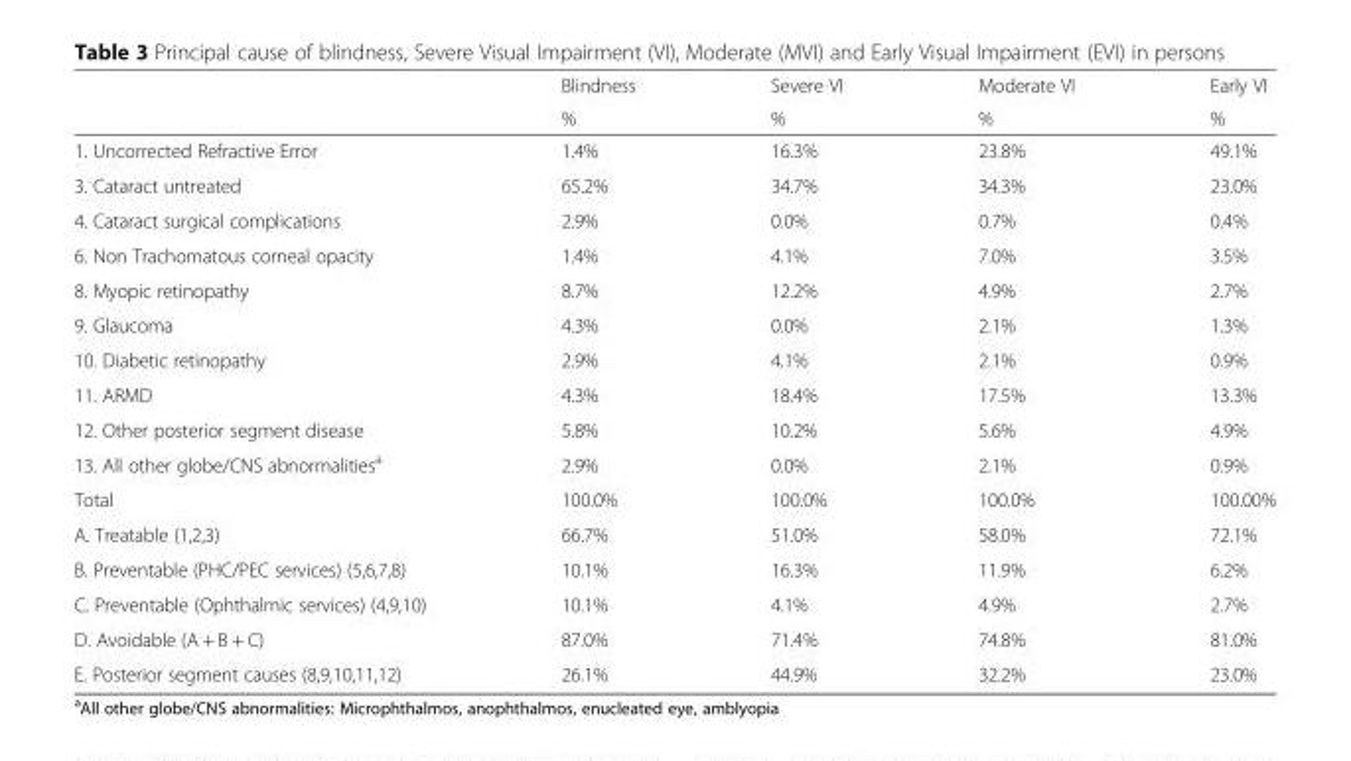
<table><thead><tr><td rowspan="2"></td><td rowspan="2">Blindness %</td><td rowspan="2">Severe VI %</td><td rowspan="2">Moderate VI %</td><td rowspan="2">Early VI %</td></tr><tr></tr></thead><tbody><tr><td>1. Uncorrected Refractive Error</td><td>1.4%</td><td>16.3%</td><td>23.8%</td><td>49.1%</td></tr><tr><td>3. Cataract untreated</td><td>65.2%</td><td>34.7%</td><td>34.3%</td><td>23.0%</td></tr><tr><td>4. Cataract surgical complications</td><td>2.9%</td><td>0.0%</td><td>0.7%</td><td>0.4%</td></tr><tr><td>6. Non Trachomatous corneal opacity</td><td>1.4%</td><td>4.1%</td><td>7.0%</td><td>3.5%</td></tr><tr><td>8. Myopic retinopathy</td><td>8.7%</td><td>12.2%</td><td>4.9%</td><td>2.7%</td></tr><tr><td>9. Glaucoma</td><td>4.3%</td><td>0.0%</td><td>2.1%</td><td>1.3%</td></tr><tr><td>10. Diabetic retinopathy</td><td>2.9%</td><td>4.1%</td><td>2.1%</td><td>0.9%</td></tr><tr><td>11. ARMD</td><td>4.3%</td><td>18.4%</td><td>17.5%</td><td>13.3%</td></tr><tr><td>12. Other posterior segment disease</td><td>5.8%</td><td>10.2%</td><td>5.6%</td><td>4.9%</td></tr><tr><td>13. All other globe/CNS abnormalities<sup>a</sup></td><td>2.9%</td><td>0.0%</td><td>2.1%</td><td>0.9%</td></tr><tr><td>Total</td><td>100.0%</td><td>100.0%</td><td>100.0%</td><td>100.00%</td></tr><tr><td>A. Treatable (1,2,3)</td><td>66.7%</td><td>51.0%</td><td>58.0%</td><td>72.1%</td></tr><tr><td>B. Preventable (PHC/PEC services) (5,6,7,8)</td><td>10.1%</td><td>16.3%</td><td>11.9%</td><td>6.2%</td></tr><tr><td>C. Preventable (Ophthalmic services) (4,9,10)</td><td>10.1%</td><td>4.1%</td><td>4.9%</td><td>2.7%</td></tr><tr><td>D. Avoidable (A + B + C)</td><td>87.0%</td><td>71.4%</td><td>74.8%</td><td>81.0%</td></tr><tr><td>E. Posterior segment causes (8,9,10,11,12)</td><td>26.1%</td><td>44.9%</td><td>32.2%</td><td>23.0%</td></tr></tbody></table>